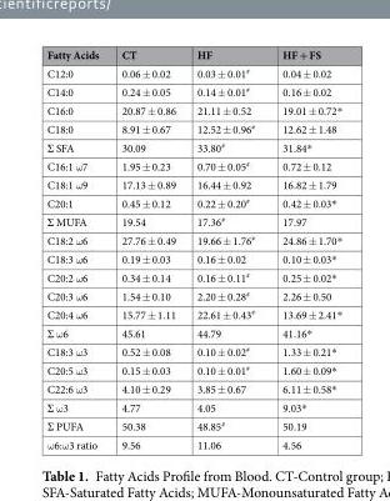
<table><thead><tr><td>Fatty Acids</td><td>CT</td><td>HF</td><td>HF + FS</td></tr></thead><tbody><tr><td>C12:0</td><td>0.06 ± 0.02</td><td>0.03 ± 0.01<sup>#</sup></td><td>0.04 ± 0.02</td></tr><tr><td>C14:0</td><td>0.24 ± 0.05</td><td>0.14 ± 0.01<sup>#</sup></td><td>0.16 ± 0.02</td></tr><tr><td>C16:0</td><td>20.87 ± 0.86</td><td>21.11 ± 0.52</td><td>19.01 ± 0.72*</td></tr><tr><td>C18:0</td><td>8.91 ± 0.67</td><td>12.52 ± 0.96<sup>#</sup></td><td>12.62 ± 1.48</td></tr><tr><td>Ʃ SFA</td><td>30.09</td><td>33.80<sup>#</sup></td><td>31.84*</td></tr><tr><td>C16:1 ω7</td><td>1.95 ± 0.23</td><td>0.70 ± 0.05<sup>#</sup></td><td>0.72 ± 0.12</td></tr><tr><td>C18:1 ω9</td><td>17.13 ± 0.89</td><td>16.44 ± 0.92</td><td>16.82 ± 1.79</td></tr><tr><td>C20:1</td><td>0.45 ± 0.12</td><td>0.22 ± 0.20<sup>#</sup></td><td>0.42 ± 0.03*</td></tr><tr><td>Ʃ MUFA</td><td>19.54</td><td>17.36<sup>#</sup></td><td>17.97</td></tr><tr><td>C18:2 ω6</td><td>27.76 ± 0.49</td><td>19.66 ± 1.76<sup>#</sup></td><td>24.86 ± 1.70*</td></tr><tr><td>C18:3 ω6</td><td>0.19 ± 0.03</td><td>0.16 ± 0.02</td><td>0.10 ± 0.03*</td></tr><tr><td>C20:2 ω6</td><td>0.34 ± 0.14</td><td>0.16 ± 0.11<sup>#</sup></td><td>0.25 ± 0.02*</td></tr><tr><td>C20:3 ω6</td><td>1.54 ± 0.10</td><td>2.20 ± 0.28<sup>#</sup></td><td>2.26 ± 0.50</td></tr><tr><td>C20:4 ω6</td><td>15.77 ± 1.11</td><td>22.61 ± 0.43<sup>#</sup></td><td>13.69 ± 2.41*</td></tr><tr><td>Ʃ ω6</td><td>45.61</td><td>44.79</td><td>41.16*</td></tr><tr><td>C18:3 ω3</td><td>0.52 ± 0.08</td><td>0.10 ± 0.02<sup>#</sup></td><td>1.33 ± 0.21*</td></tr><tr><td>C20:5 ω3</td><td>0.15 ± 0.03</td><td>0.10 ± 0.01<sup>#</sup></td><td>1.60 ± 0.09*</td></tr><tr><td>C22:6 ω3</td><td>4.10 ± 0.29</td><td>3.85 ± 0.67</td><td>6.11 ± 0.58*</td></tr><tr><td>Ʃ ω3</td><td>4.77</td><td>4.05</td><td>9.03*</td></tr><tr><td>Ʃ PUFA</td><td>50.38</td><td>48.85<sup>#</sup></td><td>50.19</td></tr><tr><td>ω6:ω3 ratio</td><td>9.56</td><td>11.06</td><td>4.56</td></tr></tbody></table>